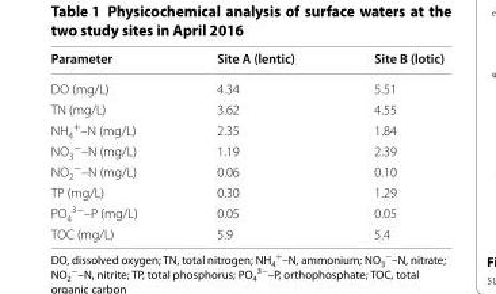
<table><thead><tr><td>Parameter</td><td>Site A (lentic)</td><td>Site B (lotic)</td></tr></thead><tbody><tr><td>DO (mg/L)</td><td>4.34</td><td>5.51</td></tr><tr><td>TN (mg/L)</td><td>3.62</td><td>4.55</td></tr><tr><td>NH<sub>4</sub> <sup>+</sup>–N (mg/L)</td><td>2.35</td><td>1.84</td></tr><tr><td>NO<sub>3</sub> <sup>−</sup>–N (mg/L)</td><td>1.19</td><td>2.39</td></tr><tr><td>NO<sub>2</sub> <sup>−</sup>–N (mg/L)</td><td>0.06</td><td>0.10</td></tr><tr><td>TP (mg/L)</td><td>0.30</td><td>1.29</td></tr><tr><td>PO<sub>4</sub> <sup>3−</sup>–P (mg/L)</td><td>0.05</td><td>0.05</td></tr><tr><td>TOC (mg/L)</td><td>5.9</td><td>5.4</td></tr></tbody></table>